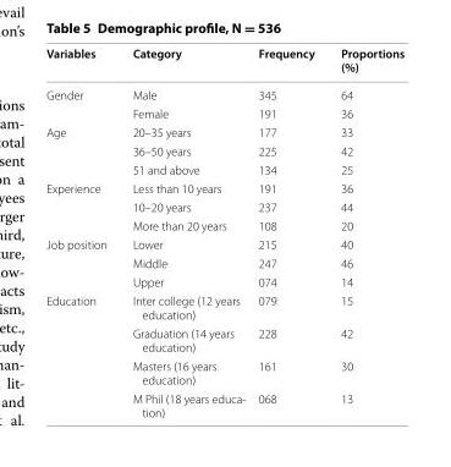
<table><thead><tr><td>Variables</td><td>Category</td><td>Frequency</td><td>Proportions (%)</td></tr></thead><tbody><tr><td rowspan="2">Gender</td><td>Male</td><td>345</td><td>64</td></tr><tr><td>Female</td><td>191</td><td>36</td></tr><tr><td rowspan="3">Age</td><td>20–35 years</td><td>177</td><td>33</td></tr><tr><td>36–50 years</td><td>225</td><td>42</td></tr><tr><td>51 and above</td><td>134</td><td>25</td></tr><tr><td rowspan="3">Experience</td><td>Less than 10 years</td><td>191</td><td>36</td></tr><tr><td>10–20 years</td><td>237</td><td>44</td></tr><tr><td>More than 20 years</td><td>108</td><td>20</td></tr><tr><td rowspan="3">Job position</td><td>Lower</td><td>215</td><td>40</td></tr><tr><td>Middle</td><td>247</td><td>46</td></tr><tr><td>Upper</td><td>074</td><td>14</td></tr><tr><td rowspan="4">Education</td><td>Inter college (12 years education)</td><td>079</td><td>15</td></tr><tr><td>Graduation (14 years education)</td><td>228</td><td>42</td></tr><tr><td>Masters (16 years education)</td><td>161</td><td>30</td></tr><tr><td>M Phil (18 years educa- tion)</td><td>068</td><td>13</td></tr></tbody></table>